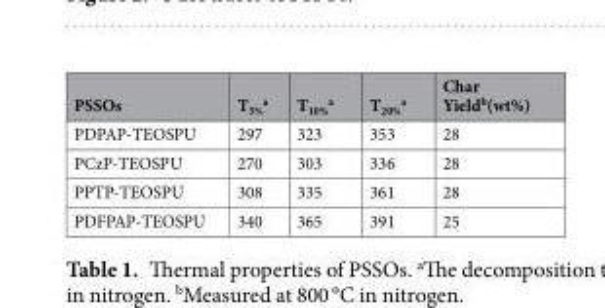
<table><thead><tr><td>PSSOs</td><td>T<sub>5%</sub> <sup>a</sup></td><td>T<sub>10%</sub> <sup>a</sup></td><td>T<sub>20%</sub> <sup>a</sup></td><td>Char Yield<sup>b</sup>(wt%)</td></tr></thead><tbody><tr><td>PDPAP-TEOSPU</td><td>297</td><td>323</td><td>353</td><td>28</td></tr><tr><td>PCzP-TEOSPU</td><td>270</td><td>303</td><td>336</td><td>28</td></tr><tr><td>PPTP-TEOSPU</td><td>308</td><td>335</td><td>361</td><td>28</td></tr><tr><td>PDFPAP-TEOSPU</td><td>340</td><td>365</td><td>391</td><td>25</td></tr></tbody></table>